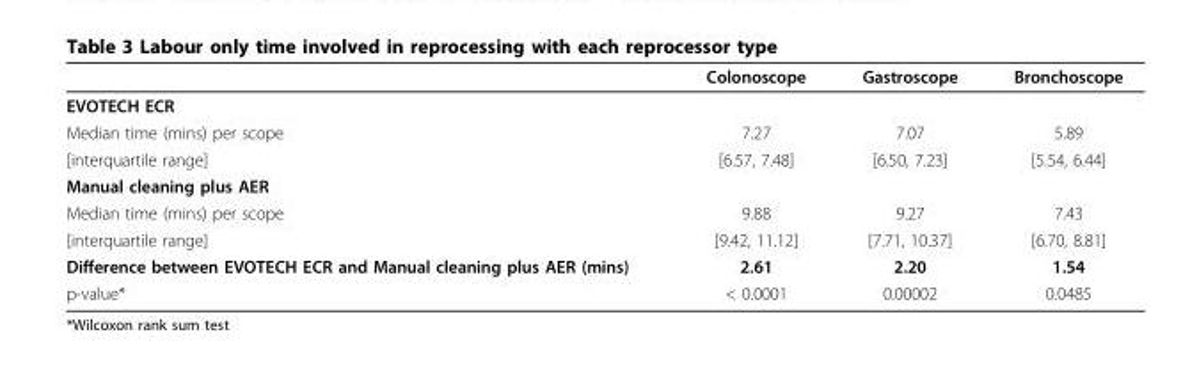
<table><thead><tr><td></td><td>Colonoscope</td><td>Gastroscope</td><td>Bronchoscope</td></tr></thead><tbody><tr><td colspan="4">EVOTECH ECR</td></tr><tr><td>Median time (mins) per scope</td><td>7.27</td><td>7.07</td><td>5.89</td></tr><tr><td>[interquartile range]</td><td>[6.57, 7.48]</td><td>[6.50, 7.23]</td><td>[5.54, 6.44]</td></tr><tr><td colspan="4">Manual cleaning plus AER</td></tr><tr><td>Median time (mins) per scope</td><td>9.88</td><td>9.27</td><td>7.43</td></tr><tr><td>[interquartile range]</td><td>[9.42, 11.12]</td><td>[7.71, 10.37]</td><td>[6.70, 8.81]</td></tr><tr><td>Difference between EVOTECH ECR and Manual cleaning plus AER (mins)</td><td>2.61</td><td>2.20</td><td>1.54</td></tr><tr><td>p-value*</td><td>&lt; 0.0001</td><td>0.00002</td><td>0.0485</td></tr></tbody></table>